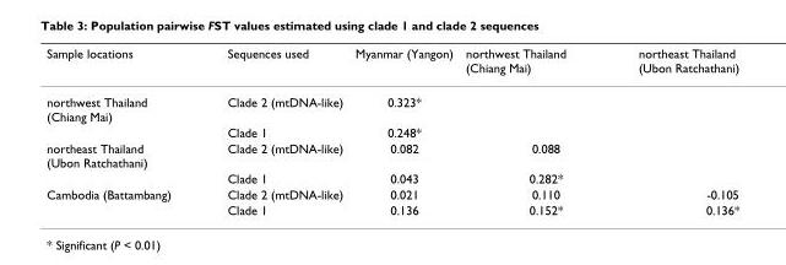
<table><thead><tr><td>Sample locations</td><td>Sequences used</td><td>Myanmar (Yangon)</td><td>northwest Thailand (Chiang Mai)</td><td>northeast Thailand (Ubon Ratchathani)</td></tr></thead><tbody><tr><td rowspan="2">northwest Thailand (Chiang Mai)</td><td>Clade 2 (mtDNA-like)</td><td>0.323*</td><td></td><td></td></tr><tr><td>Clade 1</td><td>0.248*</td><td></td><td></td></tr><tr><td rowspan="2">northeast Thailand (Ubon Ratchathani)</td><td>Clade 2 (mtDNA-like)</td><td>0.082</td><td>0.088</td><td></td></tr><tr><td>Clade 1</td><td>0.043</td><td>0.282*</td><td></td></tr><tr><td rowspan="2">Cambodia (Battambang)</td><td>Clade 2 (mtDNA-like)</td><td>0.021</td><td>0.110</td><td>-0.105</td></tr><tr><td>Clade 1</td><td>0.136</td><td>0.152*</td><td>0.136*</td></tr></tbody></table>